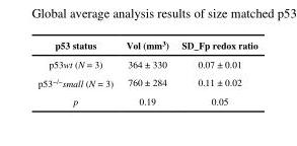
<table><thead><tr><td>p53 status</td><td>Vol (mm<sup>3</sup>)</td><td>SD_Fp redox ratio</td></tr></thead><tbody><tr><td>p53wt (N = 3)</td><td>364 ± 330</td><td>0.07 ± 0.01</td></tr><tr><td>p53<sup>−/−</sup>small (N = 3)</td><td>760 ± 284</td><td>0.11 ± 0.02</td></tr><tr><td>p</td><td>0.19</td><td>0.05</td></tr></tbody></table>